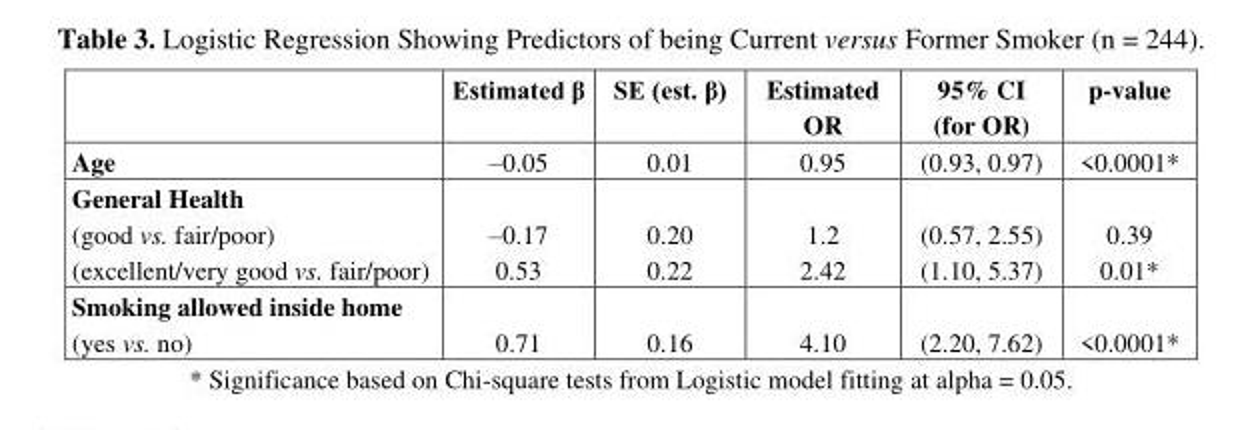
<table><thead><tr><td></td><td>Estimated β</td><td>SE (est. β)</td><td>Estimated OR</td><td>95% CI (for OR)</td><td>p-value</td></tr></thead><tbody><tr><td>Age</td><td>–0.05</td><td>0.01</td><td>0.95</td><td>(0.93, 0.97)</td><td>&lt;0.0001*</td></tr><tr><td>General Health (good vs. fair/poor) (excellent/very good vs. fair/poor)</td><td>–0.17 0.53</td><td>0.20 0.22</td><td>1.2 2.42</td><td>(0.57, 2.55) (1.10, 5.37)</td><td>0.39 0.01*</td></tr><tr><td>Smoking allowed inside home (yes vs. no)</td><td>0.71</td><td>0.16</td><td>4.10</td><td>(2.20, 7.62)</td><td>&lt;0.0001*</td></tr></tbody></table>